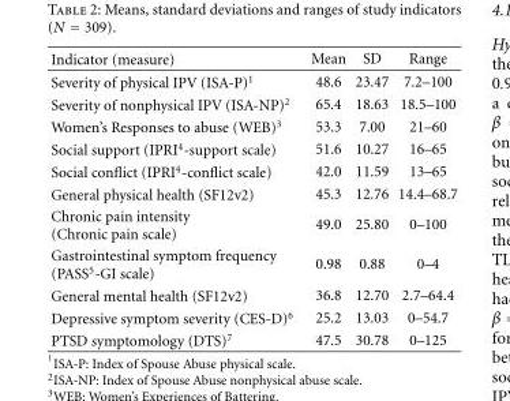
<table><thead><tr><td>Indicator (measure)</td><td>Mean</td><td>SD</td><td>Range</td></tr></thead><tbody><tr><td>Severity of physical IPV (ISA-P)<sup>1</sup></td><td>48.6</td><td>23.47</td><td>7.2–100</td></tr><tr><td>Severity of nonphysical IPV (ISA-NP)<sup>2</sup></td><td>65.4</td><td>18.63</td><td>18.5–100</td></tr><tr><td>Women’s Responses to abuse (WEB)<sup>3</sup></td><td>53.3</td><td>7.00</td><td>21–60</td></tr><tr><td>Social support (IPRI<sup>4</sup>-support scale)</td><td>51.6</td><td>10.27</td><td>16–65</td></tr><tr><td>Social conflict (IPRI<sup>4</sup>-conflict scale)</td><td>42.0</td><td>11.59</td><td>13–65</td></tr><tr><td>General physical health (SF12v2)</td><td>45.3</td><td>12.76</td><td>14.4–68.7</td></tr><tr><td>Chronic pain intensity (Chronic pain scale)</td><td>49.0</td><td>25.80</td><td>0–100</td></tr><tr><td>Gastrointestinal symptom frequency (PASS<sup>5</sup>-GI scale)</td><td>0.98</td><td>0.88</td><td>0–4</td></tr><tr><td>General mental health (SF12v2)</td><td>36.8</td><td>12.70</td><td>2.7–64.4</td></tr><tr><td>Depressive symptom severity (CES-D)<sup>6</sup></td><td>25.2</td><td>13.03</td><td>0–54.7</td></tr><tr><td>PTSD symptomology (DTS)<sup>7</sup></td><td>47.5</td><td>30.78</td><td>0–125</td></tr></tbody></table>